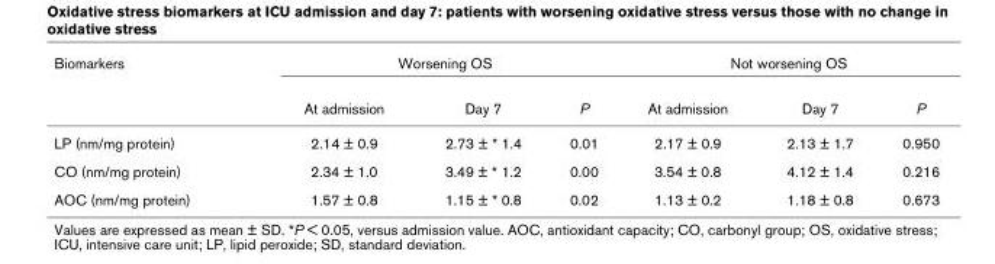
<table><thead><tr><td rowspan="2">Biomarkers</td><td colspan="3">Worsening OS</td><td colspan="3">Not worsening OS</td></tr><tr><td>At admission</td><td>Day 7</td><td>P</td><td>At admission</td><td>Day 7</td><td>P</td></tr></thead><tbody><tr><td>LP (nm/mg protein)</td><td>2.14 ± 0.9</td><td>2.73 ± * 1.4</td><td>0.01</td><td>2.17 ± 0.9</td><td>2.13 ± 1.7</td><td>0.950</td></tr><tr><td>CO (nm/mg protein)</td><td>2.34 ± 1.0</td><td>3.49 ± * 1.2</td><td>0.00</td><td>3.54 ± 0.8</td><td>4.12 ± 1.4</td><td>0.216</td></tr><tr><td>AOC (nm/mg protein)</td><td>1.57 ± 0.8</td><td>1.15 ± * 0.8</td><td>0.02</td><td>1.13 ± 0.2</td><td>1.18 ± 0.8</td><td>0.673</td></tr></tbody></table>